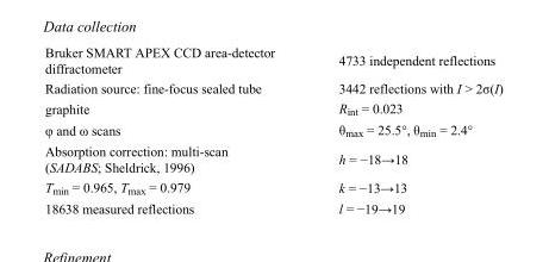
<table><tbody><tr><td>Bruker SMART APEX CCD area-detector diffractometer</td><td>4733 independent reflections</td></tr><tr><td>Radiation source: fine-focus sealed tube</td><td>3442 reflections with I &gt; 2σ(I)</td></tr><tr><td>graphite</td><td>R<sub>int</sub> = 0.023</td></tr><tr><td>φ and ω scans</td><td>θ<sub>max</sub> = 25.5°, θ<sub>min</sub> = 2.4°</td></tr><tr><td>Absorption correction: multi-scan (SADABS; Sheldrick, 1996)</td><td>h = −18→18</td></tr><tr><td>T<sub>min</sub> = 0.965, T<sub>max</sub> = 0.979</td><td>k = −13→13</td></tr><tr><td>18638 measured reflections</td><td>l = −19→19</td></tr></tbody></table>